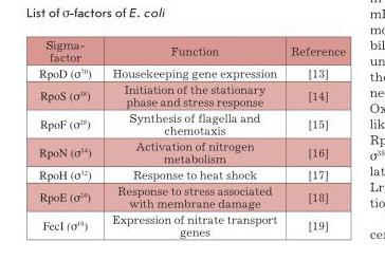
<table><thead><tr><td>Sigma- factor</td><td>Function</td><td>Reference</td></tr></thead><tbody><tr><td>RpoD (σ<sup>70</sup>)</td><td>Housekeeping gene expression</td><td>[13]</td></tr><tr><td>RpoS (σ<sup>38</sup>)</td><td>Initiation of the stationary phase and stress response</td><td>[14]</td></tr><tr><td>RpoF (σ<sup>28</sup>)</td><td>Synthesis of flagella and chemotaxis</td><td>[15]</td></tr><tr><td>RpoN (σ<sup>54</sup>)</td><td>Activation of nitrogen metabolism</td><td>[16]</td></tr><tr><td>RpoH (σ<sup>32</sup>)</td><td>Response to heat shock</td><td>[17]</td></tr><tr><td>RpoE (σ<sup>24</sup>)</td><td>Response to stress associated with membrane damage</td><td>[18]</td></tr><tr><td>FecI (σ<sup>19</sup>)</td><td>Expression of nitrate transport genes</td><td>[19]</td></tr></tbody></table>